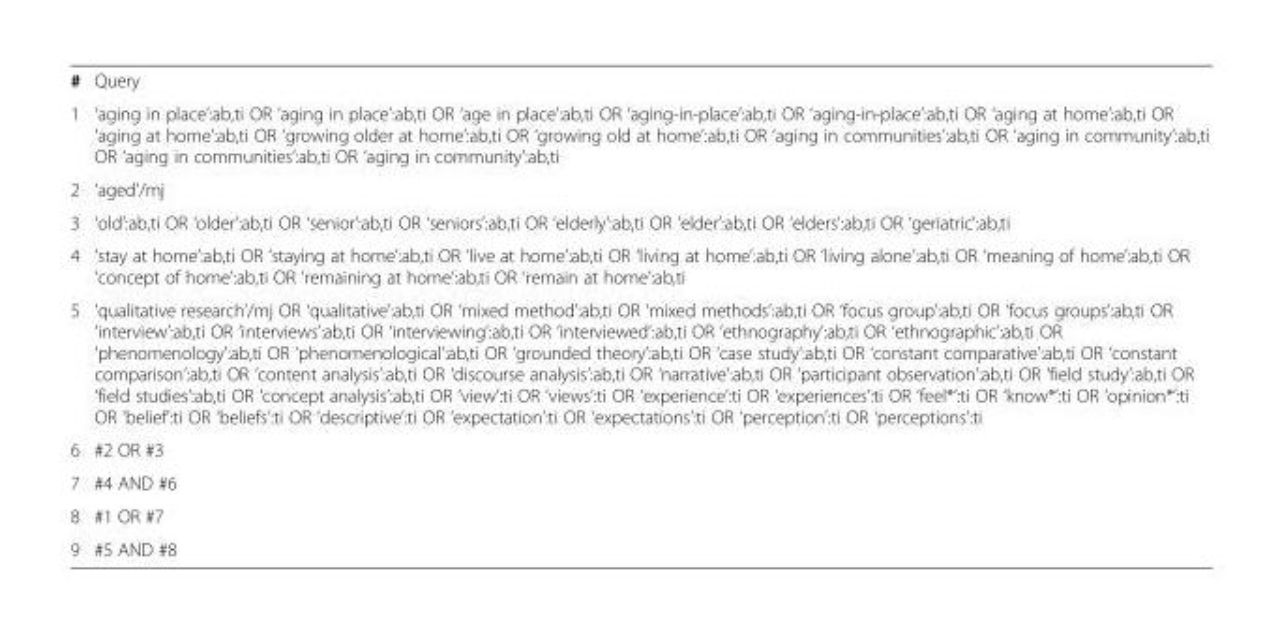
<table><tbody><tr><td>#</td><td>Query</td></tr><tr><td>1</td><td>‘aging in place’:ab,ti OR ‘aging in place’:ab,ti OR ‘age in place’:ab,ti OR ‘aging-in-place’:ab,ti OR ‘aging-in-place’:ab,ti OR ‘aging at home’:ab,ti OR ‘aging at home’:ab,ti OR ‘growing older at home’:ab,ti OR ‘growing old at home’:ab,ti OR ‘aging in communities’:ab,ti OR ‘aging in community’:ab,ti OR ‘aging in communities’:ab,ti OR ‘aging in community’:ab,ti</td></tr><tr><td>2</td><td>‘aged’/mj</td></tr><tr><td>3</td><td>‘old’:ab,ti OR ‘older’:ab,ti OR ‘senior’:ab,ti OR ‘seniors’:ab,ti OR ‘elderly’:ab,ti OR ‘elder’:ab,ti OR ‘elders’:ab,ti OR ‘geriatric’:ab,ti</td></tr><tr><td>4</td><td>‘stay at home’:ab,ti OR ‘staying at home’:ab,ti OR ‘live at home’:ab,ti OR ‘living at home’:ab,ti OR ‘living alone’:ab,ti OR ‘meaning of home’:ab,ti OR ‘concept of home’:ab,ti OR ‘remaining at home’:ab,ti OR ‘remain at home’:ab,ti</td></tr><tr><td>5</td><td>‘qualitative research’/mj OR ‘qualitative’:ab,ti OR ‘mixed method’:ab,ti OR ‘mixed methods’:ab,ti OR ‘focus group’:ab,ti OR ‘focus groups’:ab,ti OR ‘interview’:ab,ti OR ‘interviews’:ab,ti OR ‘interviewing’:ab,ti OR ‘interviewed’:ab,ti OR ‘ethnography’:ab,ti OR ‘ethnographic’:ab,ti OR ‘phenomenology’:ab,ti OR ‘phenomenological’:ab,ti OR ‘grounded theory’:ab,ti OR ‘case study’:ab,ti OR ‘constant comparative’:ab,ti OR ‘constant comparison’:ab,ti OR ‘content analysis’:ab,ti OR ‘discourse analysis’:ab,ti OR ‘narrative’:ab,ti OR ‘participant observation’:ab,ti OR ‘field study’:ab,ti OR ‘field studies’:ab,ti OR ‘concept analysis’:ab,ti OR ‘view’:ti OR ‘views’:ti OR ‘experience’:ti OR ‘experiences’:ti OR ‘feel*’:ti OR ‘know*’:ti OR ‘opinion*’:ti OR ‘belief’:ti OR ‘beliefs’:ti OR ‘descriptive’:ti OR ‘expectation’:ti OR ‘expectations’:ti OR ‘perception’:ti OR ‘perceptions’:ti</td></tr><tr><td>6</td><td>#2 OR #3</td></tr><tr><td>7</td><td>#4 AND #6</td></tr><tr><td>8</td><td>#1 OR #7</td></tr><tr><td>9</td><td>#5 AND #8</td></tr></tbody></table>